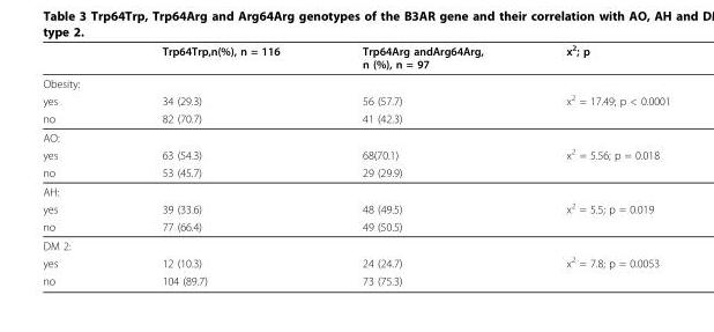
<table><thead><tr><td></td><td>Trp64Trp,n(%), n = 116</td><td>Trp64Arg andArg64Arg, n (%), n = 97</td><td>x<sup>2</sup>; p</td></tr></thead><tbody><tr><td colspan="4">Obesity:</td></tr><tr><td>yes</td><td>34 (29.3)</td><td>56 (57.7)</td><td>x<sup>2</sup> = 17.49; p &lt; 0.0001</td></tr><tr><td>no</td><td>82 (70.7)</td><td>41 (42.3)</td><td></td></tr><tr><td colspan="4">AO:</td></tr><tr><td>yes</td><td>63 (54.3)</td><td>68(70.1)</td><td>x<sup>2</sup> = 5.56; p = 0.018</td></tr><tr><td>no</td><td>53 (45.7)</td><td>29 (29.9)</td><td></td></tr><tr><td colspan="4">AH:</td></tr><tr><td>yes</td><td>39 (33.6)</td><td>48 (49.5)</td><td>x<sup>2</sup> = 5.5; p = 0.019</td></tr><tr><td>no</td><td>77 (66.4)</td><td>49 (50.5)</td><td></td></tr><tr><td colspan="4">DM 2:</td></tr><tr><td>yes</td><td>12 (10.3)</td><td>24 (24.7)</td><td>x<sup>2</sup> = 7.8; p = 0.0053</td></tr><tr><td>no</td><td>104 (89.7)</td><td>73 (75.3)</td><td></td></tr></tbody></table>